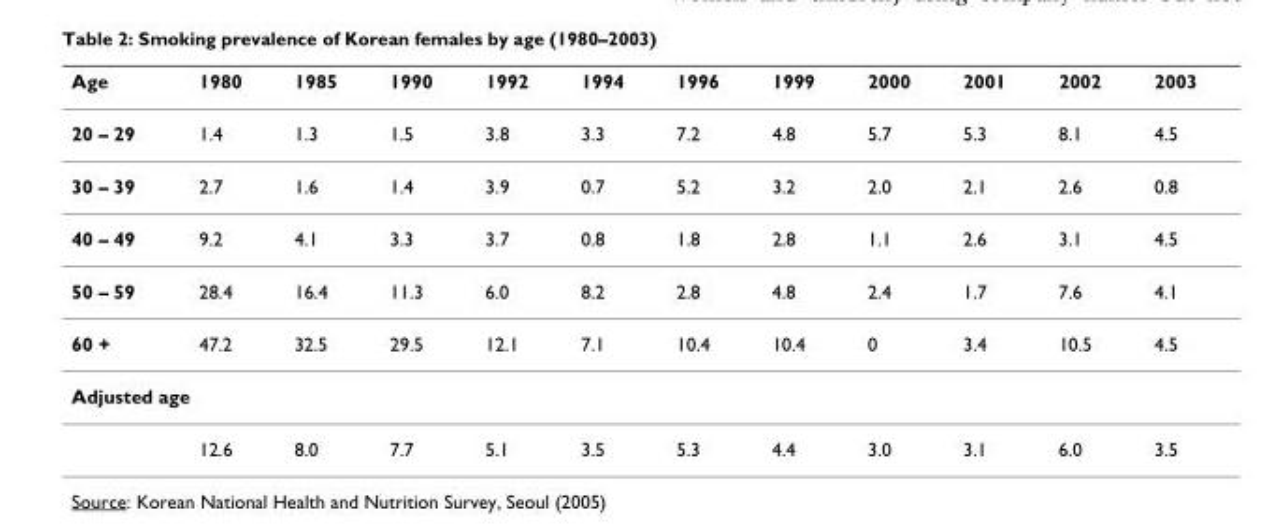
<table><thead><tr><td>Age</td><td>1980</td><td>1985</td><td>1990</td><td>1992</td><td>1994</td><td>1996</td><td>1999</td><td>2000</td><td>2001</td><td>2002</td><td>2003</td></tr></thead><tbody><tr><td>20 – 29</td><td>1.4</td><td>1.3</td><td>1.5</td><td>3.8</td><td>3.3</td><td>7.2</td><td>4.8</td><td>5.7</td><td>5.3</td><td>8.1</td><td>4.5</td></tr><tr><td>30 – 39</td><td>2.7</td><td>1.6</td><td>1.4</td><td>3.9</td><td>0.7</td><td>5.2</td><td>3.2</td><td>2.0</td><td>2.1</td><td>2.6</td><td>0.8</td></tr><tr><td>40 – 49</td><td>9.2</td><td>4.1</td><td>3.3</td><td>3.7</td><td>0.8</td><td>1.8</td><td>2.8</td><td>1.1</td><td>2.6</td><td>3.1</td><td>4.5</td></tr><tr><td>50 – 59</td><td>28.4</td><td>16.4</td><td>11.3</td><td>6.0</td><td>8.2</td><td>2.8</td><td>4.8</td><td>2.4</td><td>1.7</td><td>7.6</td><td>4.1</td></tr><tr><td>60 +</td><td>47.2</td><td>32.5</td><td>29.5</td><td>12.1</td><td>7.1</td><td>10.4</td><td>10.4</td><td>0</td><td>3.4</td><td>10.5</td><td>4.5</td></tr><tr><td colspan="12">Adjusted age</td></tr><tr><td></td><td>12.6</td><td>8.0</td><td>7.7</td><td>5.1</td><td>3.5</td><td>5.3</td><td>4.4</td><td>3.0</td><td>3.1</td><td>6.0</td><td>3.5</td></tr></tbody></table>